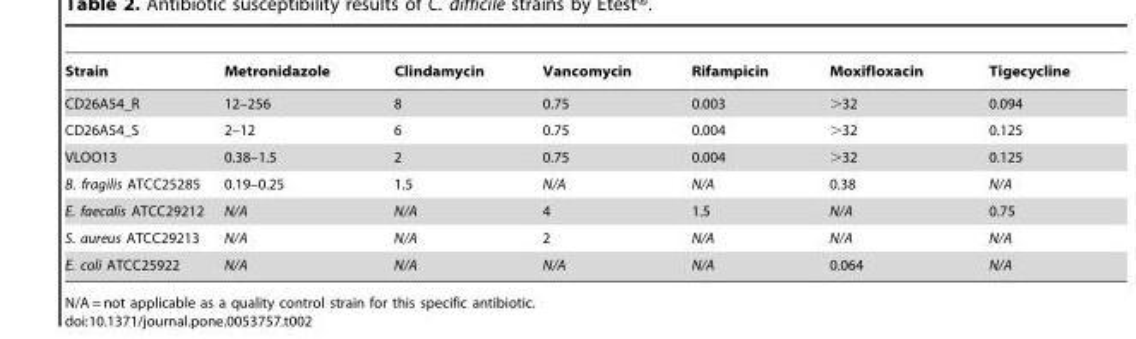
<table><thead><tr><td>Strain</td><td>Metronidazole</td><td>Clindamycin</td><td>Vancomycin</td><td>Rifampicin</td><td>Moxifloxacin</td><td>Tigecycline</td></tr></thead><tbody><tr><td>CD26A54_R</td><td>12–256</td><td>8</td><td>0.75</td><td>0.003</td><td>&gt;32</td><td>0.094</td></tr><tr><td>CD26A54_S</td><td>2–12</td><td>6</td><td>0.75</td><td>0.004</td><td>&gt;32</td><td>0.125</td></tr><tr><td>VLOO13</td><td>0.38–1.5</td><td>2</td><td>0.75</td><td>0.004</td><td>&gt;32</td><td>0.125</td></tr><tr><td>B. fragilis ATCC25285</td><td>0.19–0.25</td><td>1.5</td><td>N/A</td><td>N/A</td><td>0.38</td><td>N/A</td></tr><tr><td>E. faecalis ATCC29212</td><td>N/A</td><td>N/A</td><td>4</td><td>1.5</td><td>N/A</td><td>0.75</td></tr><tr><td>S. aureus ATCC29213</td><td>N/A</td><td>N/A</td><td>2</td><td>N/A</td><td>N/A</td><td>N/A</td></tr><tr><td>E. coli ATCC25922</td><td>N/A</td><td>N/A</td><td>N/A</td><td>N/A</td><td>0.064</td><td>N/A</td></tr></tbody></table>